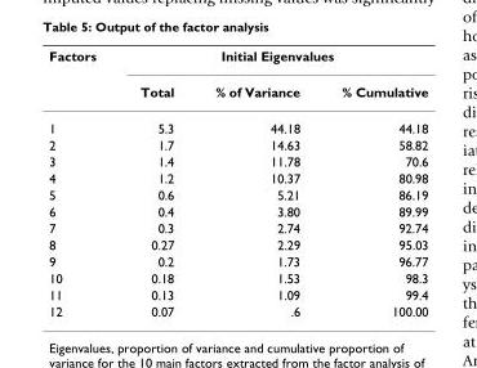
<table><thead><tr><td rowspan="2">Factors</td><td colspan="3">Initial Eigenvalues</td></tr><tr><td>Total</td><td>% of Variance</td><td>% Cumulative</td></tr></thead><tbody><tr><td>1</td><td>5.3</td><td>44.18</td><td>44.18</td></tr><tr><td>2</td><td>1.7</td><td>14.63</td><td>58.82</td></tr><tr><td>3</td><td>1.4</td><td>11.78</td><td>70.6</td></tr><tr><td>4</td><td>1.2</td><td>10.37</td><td>80.98</td></tr><tr><td>5</td><td>0.6</td><td>5.21</td><td>86.19</td></tr><tr><td>6</td><td>0.4</td><td>3.80</td><td>89.99</td></tr><tr><td>7</td><td>0.3</td><td>2.74</td><td>92.74</td></tr><tr><td>8</td><td>0.27</td><td>2.29</td><td>95.03</td></tr><tr><td>9</td><td>0.2</td><td>1.73</td><td>96.77</td></tr><tr><td>10</td><td>0.18</td><td>1.53</td><td>98.3</td></tr><tr><td>11</td><td>0.13</td><td>1.09</td><td>99.4</td></tr><tr><td>12</td><td>0.07</td><td>.6</td><td>100.00</td></tr></tbody></table>